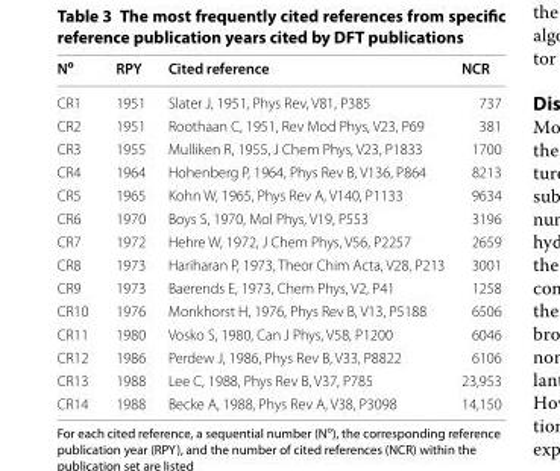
<table><thead><tr><td>N<sup>o</sup></td><td>RPY</td><td>Cited reference</td><td>NCR</td></tr></thead><tbody><tr><td>CR1</td><td>1951</td><td>Slater J, 1951, Phys Rev, V81, P385</td><td>737</td></tr><tr><td>CR2</td><td>1951</td><td>Roothaan C, 1951, Rev Mod Phys, V23, P69</td><td>381</td></tr><tr><td>CR3</td><td>1955</td><td>Mulliken R, 1955, J Chem Phys, V23, P1833</td><td>1700</td></tr><tr><td>CR4</td><td>1964</td><td>Hohenberg P, 1964, Phys Rev B, V136, P864</td><td>8213</td></tr><tr><td>CR5</td><td>1965</td><td>Kohn W, 1965, Phys Rev A, V140, P1133</td><td>9634</td></tr><tr><td>CR6</td><td>1970</td><td>Boys S, 1970, Mol Phys, V19, P553</td><td>3196</td></tr><tr><td>CR7</td><td>1972</td><td>Hehre W, 1972, J Chem Phys, V56, P2257</td><td>2659</td></tr><tr><td>CR8</td><td>1973</td><td>Hariharan P, 1973, Theor Chim Acta, V28, P213</td><td>3001</td></tr><tr><td>CR9</td><td>1973</td><td>Baerends E, 1973, Chem Phys, V2, P41</td><td>1258</td></tr><tr><td>CR10</td><td>1976</td><td>Monkhorst H, 1976, Phys Rev B, V13, P5188</td><td>6506</td></tr><tr><td>CR11</td><td>1980</td><td>Vosko S, 1980, Can J Phys, V58, P1200</td><td>6046</td></tr><tr><td>CR12</td><td>1986</td><td>Perdew J, 1986, Phys Rev B, V33, P8822</td><td>6106</td></tr><tr><td>CR13</td><td>1988</td><td>Lee C, 1988, Phys Rev B, V37, P785</td><td>23,953</td></tr><tr><td>CR14</td><td>1988</td><td>Becke A, 1988, Phys Rev A, V38, P3098</td><td>14,150</td></tr></tbody></table>